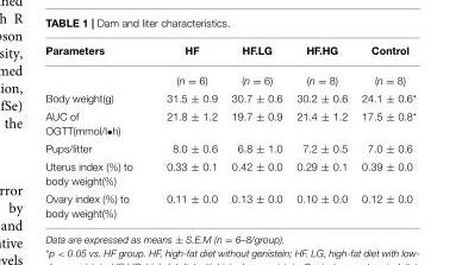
<table><thead><tr><td>Parameters</td><td>HF</td><td>HF.LG</td><td>HF.HG</td><td>Control</td></tr></thead><tbody><tr><td></td><td>(n = 6)</td><td>(n = 6)</td><td>(n = 8)</td><td>(n = 8)</td></tr><tr><td>Body weight(g)</td><td>31.5 ± 0.9</td><td>30.7 ± 0.6</td><td>30.2 ± 0.6</td><td>24.1 ± 0.6*</td></tr><tr><td>AUC of OGTT(mmol/l•h)</td><td>21.8 ± 1.2</td><td>19.7 ± 0.9</td><td>21.4 ± 1.2</td><td>17.5 ± 0.8*</td></tr><tr><td>Pups/litter</td><td>8.0 ± 0.6</td><td>6.8 ± 1.0</td><td>7.2 ± 0.5</td><td>7.0 ± 0.6</td></tr><tr><td>Uterus index (%) to body weight(%)</td><td>0.33 ± 0.1</td><td>0.42 ± 0.0</td><td>0.29 ± 0.1</td><td>0.39 ± 0.0</td></tr><tr><td>Ovary index (%) to body weight(%)</td><td>0.11 ± 0.0</td><td>0.13 ± 0.0</td><td>0.10 ± 0.0</td><td>0.12 ± 0.0</td></tr></tbody></table>